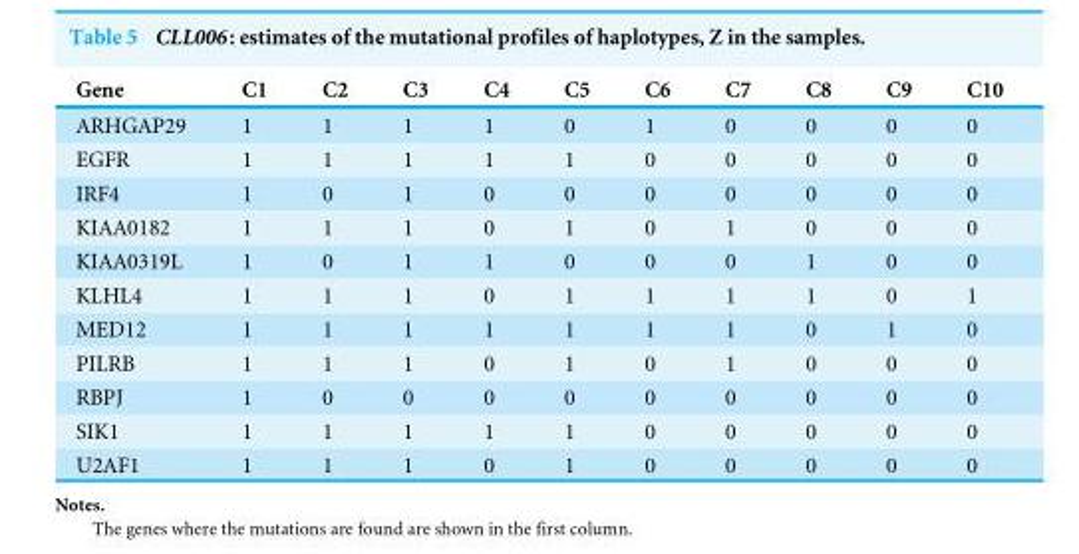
<table><thead><tr><td>Gene</td><td>C1</td><td>C2</td><td>C3</td><td>C4</td><td>C5</td><td>C6</td><td>C7</td><td>C8</td><td>C9</td><td>C10</td></tr></thead><tbody><tr><td>ARHGAP29</td><td>1</td><td>1</td><td>1</td><td>1</td><td>0</td><td>1</td><td>0</td><td>0</td><td>0</td><td>0</td></tr><tr><td>EGFR</td><td>1</td><td>1</td><td>1</td><td>1</td><td>1</td><td>0</td><td>0</td><td>0</td><td>0</td><td>0</td></tr><tr><td>IRF4</td><td>1</td><td>0</td><td>1</td><td>0</td><td>0</td><td>0</td><td>0</td><td>0</td><td>0</td><td>0</td></tr><tr><td>KIAA0182</td><td>1</td><td>1</td><td>1</td><td>0</td><td>1</td><td>0</td><td>1</td><td>0</td><td>0</td><td>0</td></tr><tr><td>KIAA0319L</td><td>1</td><td>0</td><td>1</td><td>1</td><td>0</td><td>0</td><td>0</td><td>1</td><td>0</td><td>0</td></tr><tr><td>KLHL4</td><td>1</td><td>1</td><td>1</td><td>0</td><td>1</td><td>1</td><td>1</td><td>1</td><td>0</td><td>1</td></tr><tr><td>MED12</td><td>1</td><td>1</td><td>1</td><td>1</td><td>1</td><td>1</td><td>1</td><td>0</td><td>1</td><td>0</td></tr><tr><td>PILRB</td><td>1</td><td>1</td><td>1</td><td>0</td><td>1</td><td>0</td><td>1</td><td>0</td><td>0</td><td>0</td></tr><tr><td>RBPJ</td><td>1</td><td>0</td><td>0</td><td>0</td><td>0</td><td>0</td><td>0</td><td>0</td><td>0</td><td>0</td></tr><tr><td>SIK1</td><td>1</td><td>1</td><td>1</td><td>1</td><td>1</td><td>0</td><td>0</td><td>0</td><td>0</td><td>0</td></tr><tr><td>U2AF1</td><td>1</td><td>1</td><td>1</td><td>0</td><td>1</td><td>0</td><td>0</td><td>0</td><td>0</td><td>0</td></tr></tbody></table>